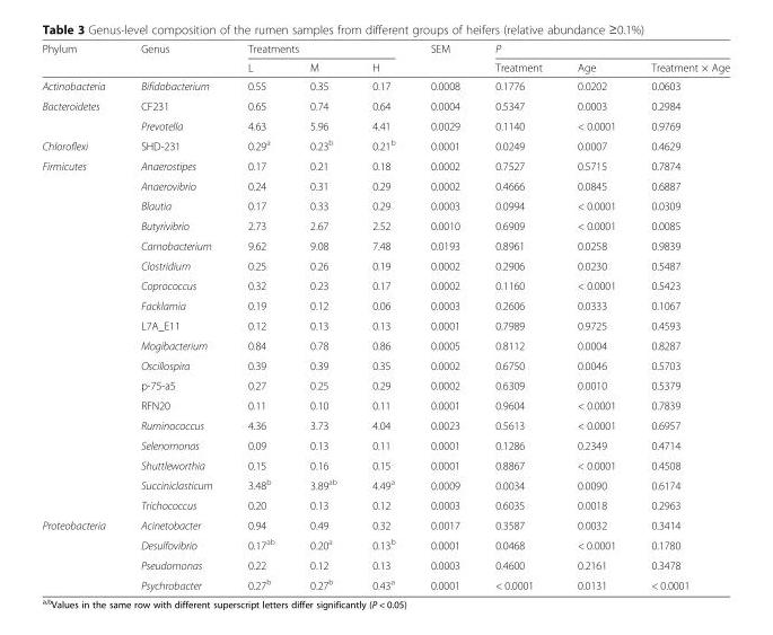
<table><thead><tr><td rowspan="2">Phylum</td><td rowspan="2">Genus</td><td colspan="3">Treatments</td><td rowspan="2">SEM</td><td colspan="3">P</td></tr><tr><td>L</td><td>M</td><td>H</td><td>Treatment</td><td>Age</td><td>Treatment × Age</td></tr></thead><tbody><tr><td>Actinobacteria</td><td>Bifidobacterium</td><td>0.55</td><td>0.35</td><td>0.17</td><td>0.0008</td><td>0.1776</td><td>0.0202</td><td>0.0603</td></tr><tr><td rowspan="2">Bacteroidetes</td><td>CF231</td><td>0.65</td><td>0.74</td><td>0.64</td><td>0.0004</td><td>0.5347</td><td>0.0003</td><td>0.2984</td></tr><tr><td>Prevotella</td><td>4.63</td><td>5.96</td><td>4.41</td><td>0.0029</td><td>0.1140</td><td>&lt; 0.0001</td><td>0.9769</td></tr><tr><td>Chloroflexi</td><td>SHD-231</td><td>0.29<sup>a</sup></td><td>0.23<sup>b</sup></td><td>0.21<sup>b</sup></td><td>0.0001</td><td>0.0249</td><td>0.0007</td><td>0.4629</td></tr><tr><td rowspan="18">Firmicutes</td><td>Anaerostipes</td><td>0.17</td><td>0.21</td><td>0.18</td><td>0.0002</td><td>0.7527</td><td>0.5715</td><td>0.7874</td></tr><tr><td>Anaerovibrio</td><td>0.24</td><td>0.31</td><td>0.29</td><td>0.0002</td><td>0.4666</td><td>0.0845</td><td>0.6887</td></tr><tr><td>Blautia</td><td>0.17</td><td>0.33</td><td>0.29</td><td>0.0003</td><td>0.0994</td><td>&lt; 0.0001</td><td>0.0309</td></tr><tr><td>Butyrivibrio</td><td>2.73</td><td>2.67</td><td>2.52</td><td>0.0010</td><td>0.6909</td><td>&lt; 0.0001</td><td>0.0085</td></tr><tr><td>Carnobacterium</td><td>9.62</td><td>9.08</td><td>7.48</td><td>0.0193</td><td>0.8961</td><td>0.0258</td><td>0.9839</td></tr><tr><td>Clostridium</td><td>0.25</td><td>0.26</td><td>0.19</td><td>0.0002</td><td>0.2906</td><td>0.0230</td><td>0.5487</td></tr><tr><td>Coprococcus</td><td>0.32</td><td>0.23</td><td>0.17</td><td>0.0002</td><td>0.1160</td><td>&lt; 0.0001</td><td>0.5423</td></tr><tr><td>Facklamia</td><td>0.19</td><td>0.12</td><td>0.06</td><td>0.0003</td><td>0.2606</td><td>0.0333</td><td>0.1067</td></tr><tr><td>L7A_E11</td><td>0.12</td><td>0.13</td><td>0.13</td><td>0.0001</td><td>0.7989</td><td>0.9725</td><td>0.4593</td></tr><tr><td>Mogibacterium</td><td>0.84</td><td>0.78</td><td>0.86</td><td>0.0005</td><td>0.8112</td><td>0.0004</td><td>0.8287</td></tr><tr><td>Oscillospira</td><td>0.39</td><td>0.39</td><td>0.35</td><td>0.0002</td><td>0.6750</td><td>0.0046</td><td>0.5703</td></tr><tr><td>p-75-a5</td><td>0.27</td><td>0.25</td><td>0.29</td><td>0.0002</td><td>0.6309</td><td>0.0010</td><td>0.5379</td></tr><tr><td>RFN20</td><td>0.11</td><td>0.10</td><td>0.11</td><td>0.0001</td><td>0.9604</td><td>&lt; 0.0001</td><td>0.7839</td></tr><tr><td>Ruminococcus</td><td>4.36</td><td>3.73</td><td>4.04</td><td>0.0023</td><td>0.5613</td><td>&lt; 0.0001</td><td>0.6957</td></tr><tr><td>Selenomonas</td><td>0.09</td><td>0.13</td><td>0.11</td><td>0.0001</td><td>0.1286</td><td>0.2349</td><td>0.4714</td></tr><tr><td>Shuttleworthia</td><td>0.15</td><td>0.16</td><td>0.15</td><td>0.0001</td><td>0.8867</td><td>&lt; 0.0001</td><td>0.4508</td></tr><tr><td>Succiniclasticum</td><td>3.48<sup>b</sup></td><td>3.89<sup>ab</sup></td><td>4.49<sup>a</sup></td><td>0.0009</td><td>0.0034</td><td>0.0090</td><td>0.6174</td></tr><tr><td>Trichococcus</td><td>0.20</td><td>0.13</td><td>0.12</td><td>0.0003</td><td>0.6035</td><td>0.0018</td><td>0.2963</td></tr><tr><td rowspan="4">Proteobacteria</td><td>Acinetobacter</td><td>0.94</td><td>0.49</td><td>0.32</td><td>0.0017</td><td>0.3587</td><td>0.0032</td><td>0.3414</td></tr><tr><td>Desulfovibrio</td><td>0.17<sup>ab</sup></td><td>0.20<sup>a</sup></td><td>0.13<sup>b</sup></td><td>0.0001</td><td>0.0468</td><td>&lt; 0.0001</td><td>0.1780</td></tr><tr><td>Pseudomonas</td><td>0.22</td><td>0.12</td><td>0.13</td><td>0.0003</td><td>0.4600</td><td>0.2161</td><td>0.3478</td></tr><tr><td>Psychrobacter</td><td>0.27<sup>b</sup></td><td>0.27<sup>b</sup></td><td>0.43<sup>a</sup></td><td>0.0001</td><td>&lt; 0.0001</td><td>0.0131</td><td>&lt; 0.0001</td></tr></tbody></table>